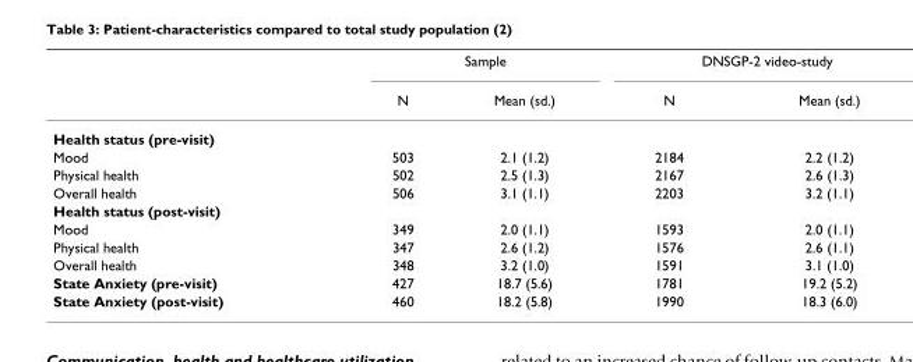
<table><thead><tr><td rowspan="2"></td><td colspan="2">Sample</td><td colspan="2">DNSGP-2 video-study</td></tr><tr><td>N</td><td>Mean (sd.)</td><td>N</td><td>Mean (sd.)</td></tr></thead><tbody><tr><td colspan="5">Health status (pre-visit)</td></tr><tr><td>Mood</td><td>503</td><td>2.1 (1.2)</td><td>2184</td><td>2.2 (1.2)</td></tr><tr><td>Physical health</td><td>502</td><td>2.5 (1.3)</td><td>2167</td><td>2.6 (1.3)</td></tr><tr><td>Overall health</td><td>506</td><td>3.1 (1.1)</td><td>2203</td><td>3.2 (1.1)</td></tr><tr><td colspan="5">Health status (post-visit)</td></tr><tr><td>Mood</td><td>349</td><td>2.0 (1.1)</td><td>1593</td><td>2.0 (1.1)</td></tr><tr><td>Physical health</td><td>347</td><td>2.6 (1.2)</td><td>1576</td><td>2.6 (1.1)</td></tr><tr><td>Overall health</td><td>348</td><td>3.2 (1.0)</td><td>1591</td><td>3.1 (1.0)</td></tr><tr><td>State Anxiety (pre-visit)</td><td>427</td><td>18.7 (5.6)</td><td>1781</td><td>19.2 (5.2)</td></tr><tr><td>State Anxiety (post-visit)</td><td>460</td><td>18.2 (5.8)</td><td>1990</td><td>18.3 (6.0)</td></tr></tbody></table>